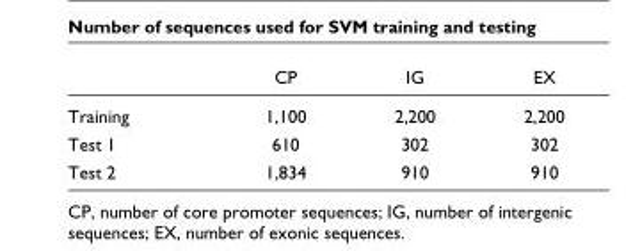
<table><thead><tr><td></td><td>CP</td><td>IG</td><td>EX</td></tr></thead><tbody><tr><td>Training</td><td>1,100</td><td>2,200</td><td>2,200</td></tr><tr><td>Test 1</td><td>610</td><td>302</td><td>302</td></tr><tr><td>Test 2</td><td>1,834</td><td>910</td><td>910</td></tr></tbody></table>